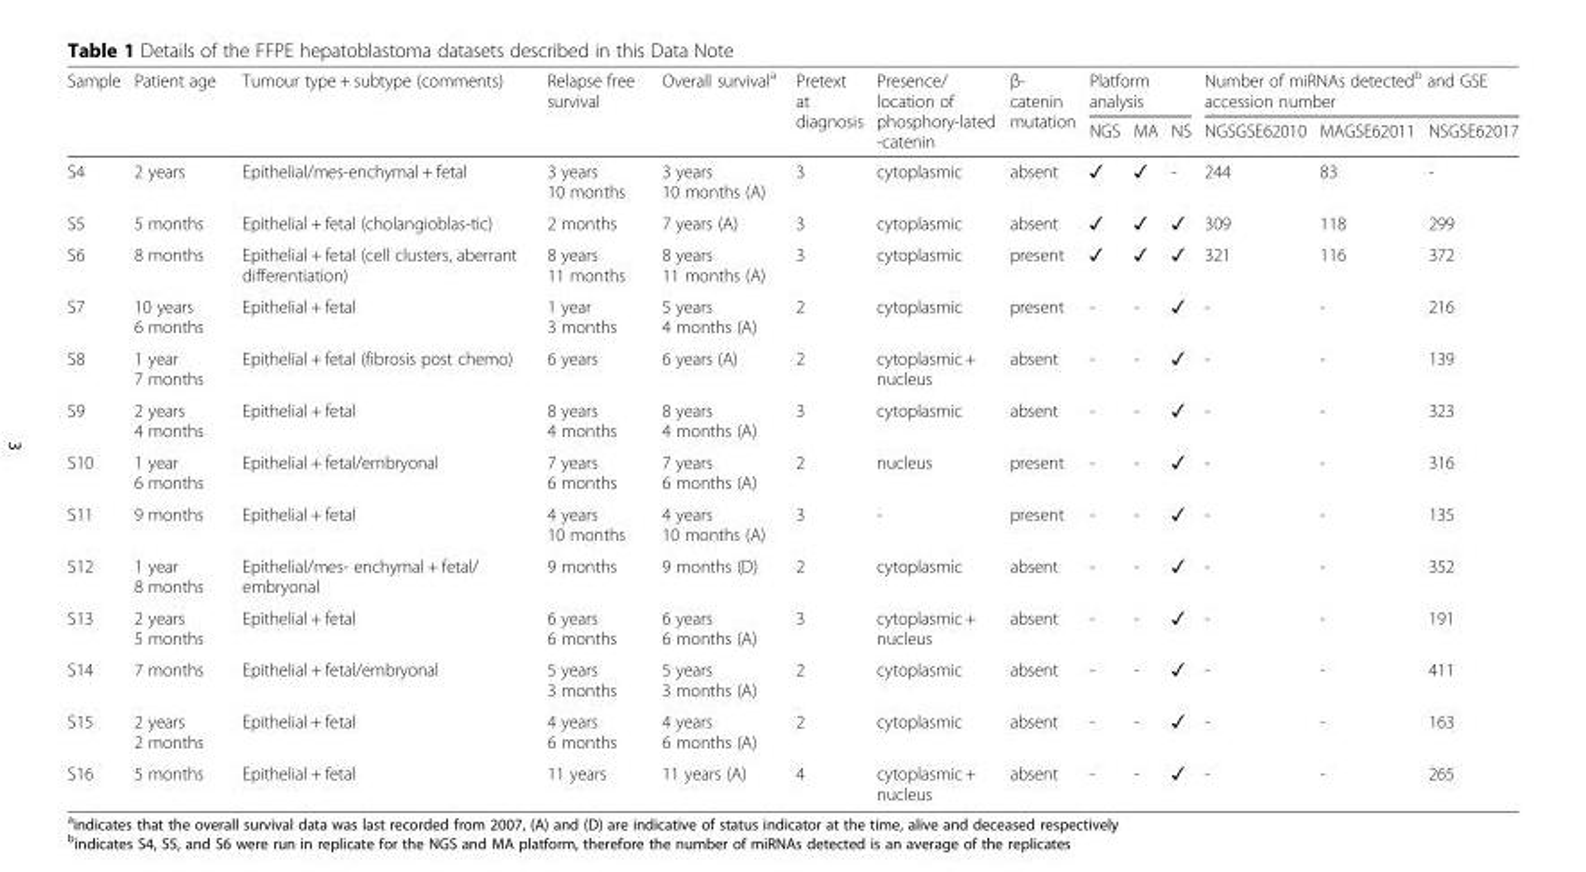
<table><thead><tr><td rowspan="2">Sample</td><td rowspan="2">Patient age</td><td rowspan="2">Tumour type + subtype (comments)</td><td rowspan="2">Relapse free survival</td><td rowspan="2">Overall survival<sup>a</sup></td><td rowspan="2">Pretext at diagnosis</td><td rowspan="2">Presence/ location of phosphory-lated -catenin</td><td rowspan="2">β- catenin mutation</td><td colspan="3">Platform analysis</td><td colspan="3">Number of miRNAs detected<sup>b</sup> and GSE accession number</td></tr><tr><td>NGS</td><td>MA</td><td>NS</td><td>NGSGSE62010</td><td>MAGSE62011</td><td>NSGSE62017</td></tr></thead><tbody><tr><td>S4</td><td>2 years</td><td>Epithelial/mes-enchymal + fetal</td><td>3 years 10 months</td><td>3 years 10 months (A)</td><td>3</td><td>cytoplasmic</td><td>absent</td><td>✓</td><td>✓</td><td>-</td><td>244</td><td>83</td><td>-</td></tr><tr><td>S5</td><td>5 months</td><td>Epithelial + fetal (cholangioblas-tic)</td><td>2 months</td><td>7 years (A)</td><td>3</td><td>cytoplasmic</td><td>absent</td><td>✓</td><td>✓</td><td>✓</td><td>309</td><td>118</td><td>299</td></tr><tr><td>S6</td><td>8 months</td><td>Epithelial + fetal (cell clusters, aberrant differentiation)</td><td>8 years 11 months</td><td>8 years 11 months (A)</td><td>3</td><td>cytoplasmic</td><td>present</td><td>✓</td><td>✓</td><td>✓</td><td>321</td><td>116</td><td>372</td></tr><tr><td>S7</td><td>10 years 6 months</td><td>Epithelial + fetal</td><td>1 year 3 months</td><td>5 years 4 months (A)</td><td>2</td><td>cytoplasmic</td><td>present</td><td>-</td><td>-</td><td>✓</td><td>-</td><td>-</td><td>216</td></tr><tr><td>S8</td><td>1 year 7 months</td><td>Epithelial + fetal (fibrosis post chemo)</td><td>6 years</td><td>6 years (A)</td><td>2</td><td>cytoplasmic + nucleus</td><td>absent</td><td>-</td><td>-</td><td>✓</td><td>-</td><td>-</td><td>139</td></tr><tr><td>S9</td><td>2 years 4 months</td><td>Epithelial + fetal</td><td>8 years 4 months</td><td>8 years 4 months (A)</td><td>3</td><td>cytoplasmic</td><td>absent</td><td>-</td><td>-</td><td>✓</td><td>-</td><td>-</td><td>323</td></tr><tr><td>S10</td><td>1 year 6 months</td><td>Epithelial + fetal/embryonal</td><td>7 years 6 months</td><td>7 years 6 months (A)</td><td>2</td><td>nucleus</td><td>present</td><td>-</td><td>-</td><td>✓</td><td>-</td><td>-</td><td>316</td></tr><tr><td>S11</td><td>9 months</td><td>Epithelial + fetal</td><td>4 years 10 months</td><td>4 years 10 months (A)</td><td>3</td><td>-</td><td>present</td><td>-</td><td>-</td><td>✓</td><td>-</td><td>-</td><td>135</td></tr><tr><td>S12</td><td>1 year 8 months</td><td>Epithelial/mes- enchymal + fetal/ embryonal</td><td>9 months</td><td>9 months (D)</td><td>2</td><td>cytoplasmic</td><td>absent</td><td>-</td><td>-</td><td>✓</td><td>-</td><td>-</td><td>352</td></tr><tr><td>S13</td><td>2 years 5 months</td><td>Epithelial + fetal</td><td>6 years 6 months</td><td>6 years 6 months (A)</td><td>3</td><td>cytoplasmic + nucleus</td><td>absent</td><td>-</td><td>-</td><td>✓</td><td>-</td><td>-</td><td>191</td></tr><tr><td>S14</td><td>7 months</td><td>Epithelial + fetal/embryonal</td><td>5 years 3 months</td><td>5 years 3 months (A)</td><td>2</td><td>cytoplasmic</td><td>absent</td><td>-</td><td>-</td><td>✓</td><td>-</td><td>-</td><td>411</td></tr><tr><td>S15</td><td>2 years 2 months</td><td>Epithelial + fetal</td><td>4 years 6 months</td><td>4 years 6 months (A)</td><td>2</td><td>cytoplasmic</td><td>absent</td><td>-</td><td>-</td><td>✓</td><td>-</td><td>-</td><td>163</td></tr><tr><td>S16</td><td>5 months</td><td>Epithelial + fetal</td><td>11 years</td><td>11 years (A)</td><td>4</td><td>cytoplasmic + nucleus</td><td>absent</td><td>-</td><td>-</td><td>✓</td><td>-</td><td>-</td><td>265</td></tr></tbody></table>